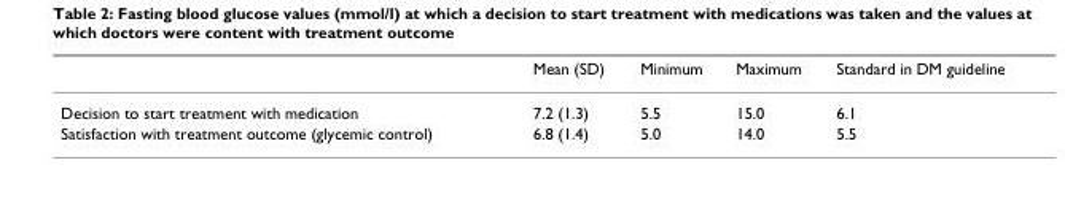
<table><thead><tr><td></td><td>Mean (SD)</td><td>Minimum</td><td>Maximum</td><td>Standard in DM guideline</td></tr></thead><tbody><tr><td>Decision to start treatment with medication</td><td>7.2 (1.3)</td><td>5.5</td><td>15.0</td><td>6.1</td></tr><tr><td>Satisfaction with treatment outcome (glycemic control)</td><td>6.8 (1.4)</td><td>5.0</td><td>14.0</td><td>5.5</td></tr></tbody></table>